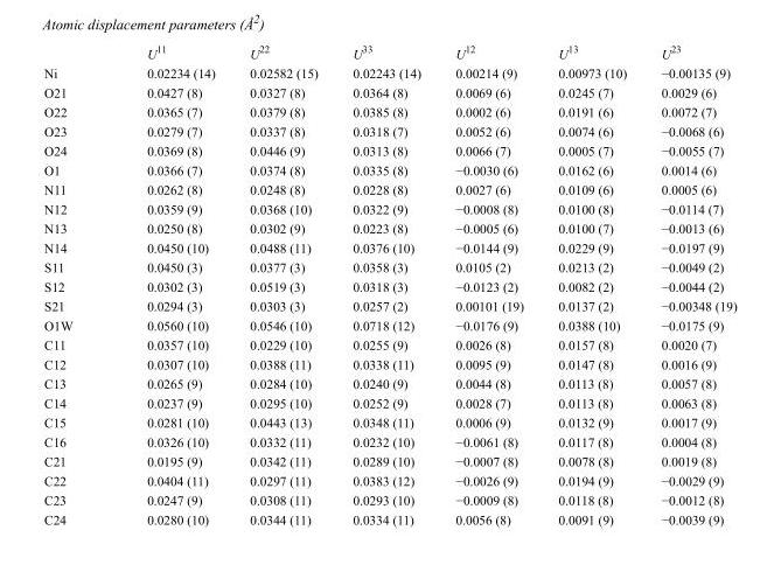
<table><thead><tr><td></td><td>U<sup>11</sup></td><td>U<sup>22</sup></td><td>U<sup>33</sup></td><td>U<sup>12</sup></td><td>U<sup>13</sup></td><td>U<sup>23</sup></td></tr></thead><tbody><tr><td>Ni</td><td>0.02234 (14)</td><td>0.02582 (15)</td><td>0.02243 (14)</td><td>0.00214 (9)</td><td>0.00973 (10)</td><td>−0.00135 (9)</td></tr><tr><td>O21</td><td>0.0427 (8)</td><td>0.0327 (8)</td><td>0.0364 (8)</td><td>0.0069 (6)</td><td>0.0245 (7)</td><td>0.0029 (6)</td></tr><tr><td>O22</td><td>0.0365 (7)</td><td>0.0379 (8)</td><td>0.0385 (8)</td><td>0.0002 (6)</td><td>0.0191 (6)</td><td>0.0072 (7)</td></tr><tr><td>O23</td><td>0.0279 (7)</td><td>0.0337 (8)</td><td>0.0318 (7)</td><td>0.0052 (6)</td><td>0.0074 (6)</td><td>−0.0068 (6)</td></tr><tr><td>O24</td><td>0.0369 (8)</td><td>0.0446 (9)</td><td>0.0313 (8)</td><td>0.0066 (7)</td><td>0.0005 (7)</td><td>−0.0055 (7)</td></tr><tr><td>O1</td><td>0.0366 (7)</td><td>0.0374 (8)</td><td>0.0335 (8)</td><td>−0.0030 (6)</td><td>0.0162 (6)</td><td>0.0014 (6)</td></tr><tr><td>N11</td><td>0.0262 (8)</td><td>0.0248 (8)</td><td>0.0228 (8)</td><td>0.0027 (6)</td><td>0.0109 (6)</td><td>0.0005 (6)</td></tr><tr><td>N12</td><td>0.0359 (9)</td><td>0.0368 (10)</td><td>0.0322 (9)</td><td>−0.0008 (8)</td><td>0.0100 (8)</td><td>−0.0114 (7)</td></tr><tr><td>N13</td><td>0.0250 (8)</td><td>0.0302 (9)</td><td>0.0223 (8)</td><td>−0.0005 (6)</td><td>0.0100 (7)</td><td>−0.0013 (6)</td></tr><tr><td>N14</td><td>0.0450 (10)</td><td>0.0488 (11)</td><td>0.0376 (10)</td><td>−0.0144 (9)</td><td>0.0229 (9)</td><td>−0.0197 (9)</td></tr><tr><td>S11</td><td>0.0450 (3)</td><td>0.0377 (3)</td><td>0.0358 (3)</td><td>0.0105 (2)</td><td>0.0213 (2)</td><td>−0.0049 (2)</td></tr><tr><td>S12</td><td>0.0302 (3)</td><td>0.0519 (3)</td><td>0.0318 (3)</td><td>−0.0123 (2)</td><td>0.0082 (2)</td><td>−0.0044 (2)</td></tr><tr><td>S21</td><td>0.0294 (3)</td><td>0.0303 (3)</td><td>0.0257 (2)</td><td>0.00101 (19)</td><td>0.0137 (2)</td><td>−0.00348 (19)</td></tr><tr><td>O1W</td><td>0.0560 (10)</td><td>0.0546 (10)</td><td>0.0718 (12)</td><td>−0.0176 (9)</td><td>0.0388 (10)</td><td>−0.0175 (9)</td></tr><tr><td>C11</td><td>0.0357 (10)</td><td>0.0229 (10)</td><td>0.0255 (9)</td><td>0.0026 (8)</td><td>0.0157 (8)</td><td>0.0020 (7)</td></tr><tr><td>C12</td><td>0.0307 (10)</td><td>0.0388 (11)</td><td>0.0338 (11)</td><td>0.0095 (9)</td><td>0.0147 (8)</td><td>0.0016 (9)</td></tr><tr><td>C13</td><td>0.0265 (9)</td><td>0.0284 (10)</td><td>0.0240 (9)</td><td>0.0044 (8)</td><td>0.0113 (8)</td><td>0.0057 (8)</td></tr><tr><td>C14</td><td>0.0237 (9)</td><td>0.0295 (10)</td><td>0.0252 (9)</td><td>0.0028 (7)</td><td>0.0113 (8)</td><td>0.0063 (8)</td></tr><tr><td>C15</td><td>0.0281 (10)</td><td>0.0443 (13)</td><td>0.0348 (11)</td><td>0.0006 (9)</td><td>0.0132 (9)</td><td>0.0017 (9)</td></tr><tr><td>C16</td><td>0.0326 (10)</td><td>0.0332 (11)</td><td>0.0232 (10)</td><td>−0.0061 (8)</td><td>0.0117 (8)</td><td>0.0004 (8)</td></tr><tr><td>C21</td><td>0.0195 (9)</td><td>0.0342 (11)</td><td>0.0289 (10)</td><td>−0.0007 (8)</td><td>0.0078 (8)</td><td>0.0019 (8)</td></tr><tr><td>C22</td><td>0.0404 (11)</td><td>0.0297 (11)</td><td>0.0383 (12)</td><td>−0.0026 (9)</td><td>0.0194 (9)</td><td>−0.0029 (9)</td></tr><tr><td>C23</td><td>0.0247 (9)</td><td>0.0308 (11)</td><td>0.0293 (10)</td><td>−0.0009 (8)</td><td>0.0118 (8)</td><td>−0.0012 (8)</td></tr><tr><td>C24</td><td>0.0280 (10)</td><td>0.0344 (11)</td><td>0.0334 (11)</td><td>0.0056 (8)</td><td>0.0091 (9)</td><td>−0.0039 (9)</td></tr></tbody></table>